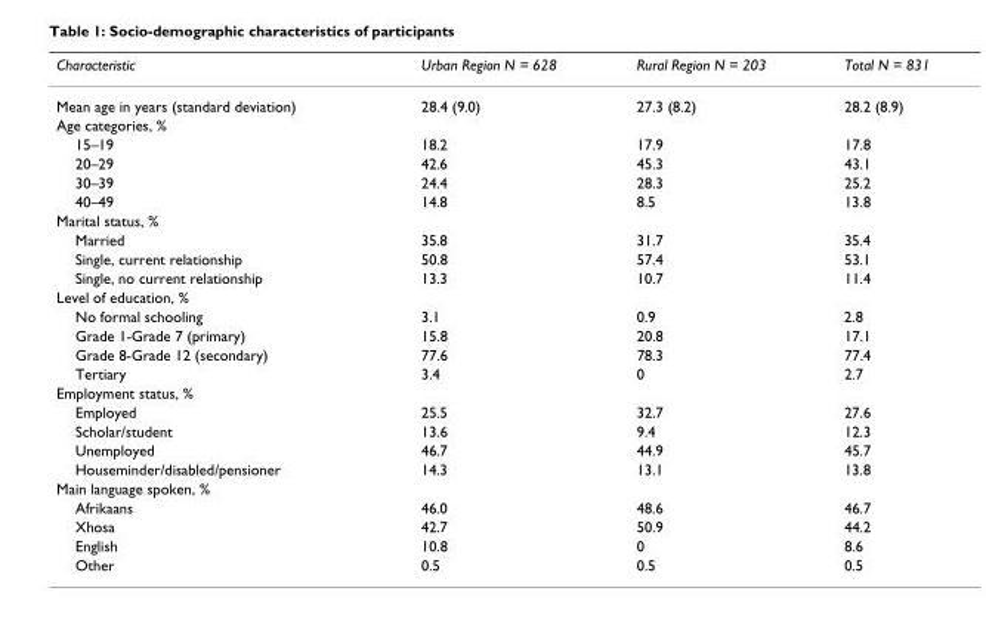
<table><thead><tr><td>Characteristic</td><td>Urban Region N = 628</td><td>Rural Region N = 203</td><td>Total N = 831</td></tr></thead><tbody><tr><td>Mean age in years (standard deviation)</td><td>28.4 (9.0)</td><td>27.3 (8.2)</td><td>28.2 (8.9)</td></tr><tr><td colspan="4">Age categories, %</td></tr><tr><td>15–19</td><td>18.2</td><td>17.9</td><td>17.8</td></tr><tr><td>20–29</td><td>42.6</td><td>45.3</td><td>43.1</td></tr><tr><td>30–39</td><td>24.4</td><td>28.3</td><td>25.2</td></tr><tr><td>40–49</td><td>14.8</td><td>8.5</td><td>13.8</td></tr><tr><td colspan="4">Marital status, %</td></tr><tr><td>Married</td><td>35.8</td><td>31.7</td><td>35.4</td></tr><tr><td>Single, current relationship</td><td>50.8</td><td>57.4</td><td>53.1</td></tr><tr><td>Single, no current relationship</td><td>13.3</td><td>10.7</td><td>11.4</td></tr><tr><td colspan="4">Level of education, %</td></tr><tr><td>No formal schooling</td><td>3.1</td><td>0.9</td><td>2.8</td></tr><tr><td>Grade 1-Grade 7 (primary)</td><td>15.8</td><td>20.8</td><td>17.1</td></tr><tr><td>Grade 8-Grade 12 (secondary)</td><td>77.6</td><td>78.3</td><td>77.4</td></tr><tr><td>Tertiary</td><td>3.4</td><td>0</td><td>2.7</td></tr><tr><td colspan="4">Employment status, %</td></tr><tr><td>Employed</td><td>25.5</td><td>32.7</td><td>27.6</td></tr><tr><td>Scholar/student</td><td>13.6</td><td>9.4</td><td>12.3</td></tr><tr><td>Unemployed</td><td>46.7</td><td>44.9</td><td>45.7</td></tr><tr><td>Houseminder/disabled/pensioner</td><td>14.3</td><td>13.1</td><td>13.8</td></tr><tr><td colspan="4">Main language spoken, %</td></tr><tr><td>Afrikaans</td><td>46.0</td><td>48.6</td><td>46.7</td></tr><tr><td>Xhosa</td><td>42.7</td><td>50.9</td><td>44.2</td></tr><tr><td>English</td><td>10.8</td><td>0</td><td>8.6</td></tr><tr><td>Other</td><td>0.5</td><td>0.5</td><td>0.5</td></tr></tbody></table>